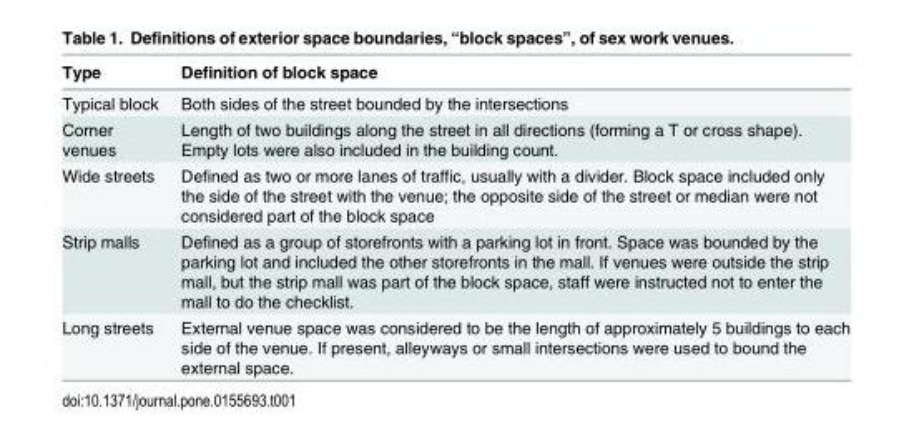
<table><thead><tr><td>Type</td><td>Definition of block space</td></tr></thead><tbody><tr><td>Typical block</td><td>Both sides of the street bounded by the intersections</td></tr><tr><td>Corner venues</td><td>Length of two buildings along the street in all directions (forming a T or cross shape). Empty lots were also included in the building count.</td></tr><tr><td>Wide streets</td><td>Defined as two or more lanes of traffic, usually with a divider. Block space included only the side of the street with the venue; the opposite side of the street or median were not considered part of the block space</td></tr><tr><td>Strip malls</td><td>Defined as a group of storefronts with a parking lot in front. Space was bounded by the parking lot and included the other storefronts in the mall. If venues were outside the strip mall, but the strip mall was part of the block space, staff were instructed not to enter the mall to do the checklist.</td></tr><tr><td>Long streets</td><td>External venue space was considered to be the length of approximately 5 buildings to each side of the venue. If present, alleyways or small intersections were used to bound the external space.</td></tr></tbody></table>